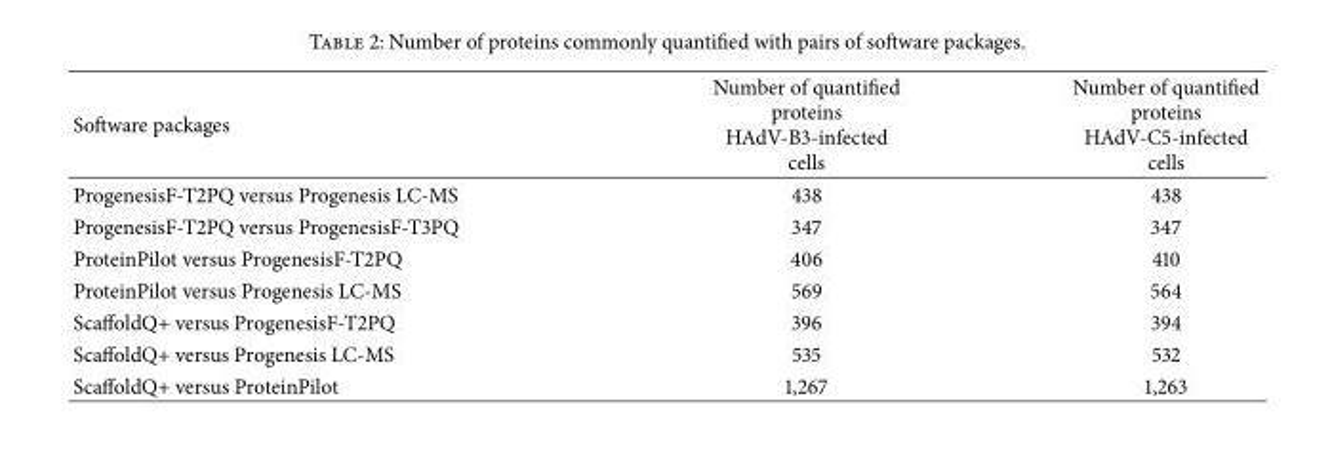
<table><thead><tr><td>Software packages</td><td>Number of quantified proteins HAdV-B3-infected cells</td><td>Number of quantified proteins HAdV-C5-infected cells</td></tr></thead><tbody><tr><td>ProgenesisF-T2PQ versus Progenesis LC-MS</td><td>438</td><td>438</td></tr><tr><td>ProgenesisF-T2PQ versus ProgenesisF-T3PQ</td><td>347</td><td>347</td></tr><tr><td>ProteinPilot versus ProgenesisF-T2PQ</td><td>406</td><td>410</td></tr><tr><td>ProteinPilot versus Progenesis LC-MS</td><td>569</td><td>564</td></tr><tr><td>ScaffoldQ+ versus ProgenesisF-T2PQ</td><td>396</td><td>394</td></tr><tr><td>ScaffoldQ+ versus Progenesis LC-MS</td><td>535</td><td>532</td></tr><tr><td>ScaffoldQ+ versus ProteinPilot</td><td>1,267</td><td>1,263</td></tr></tbody></table>